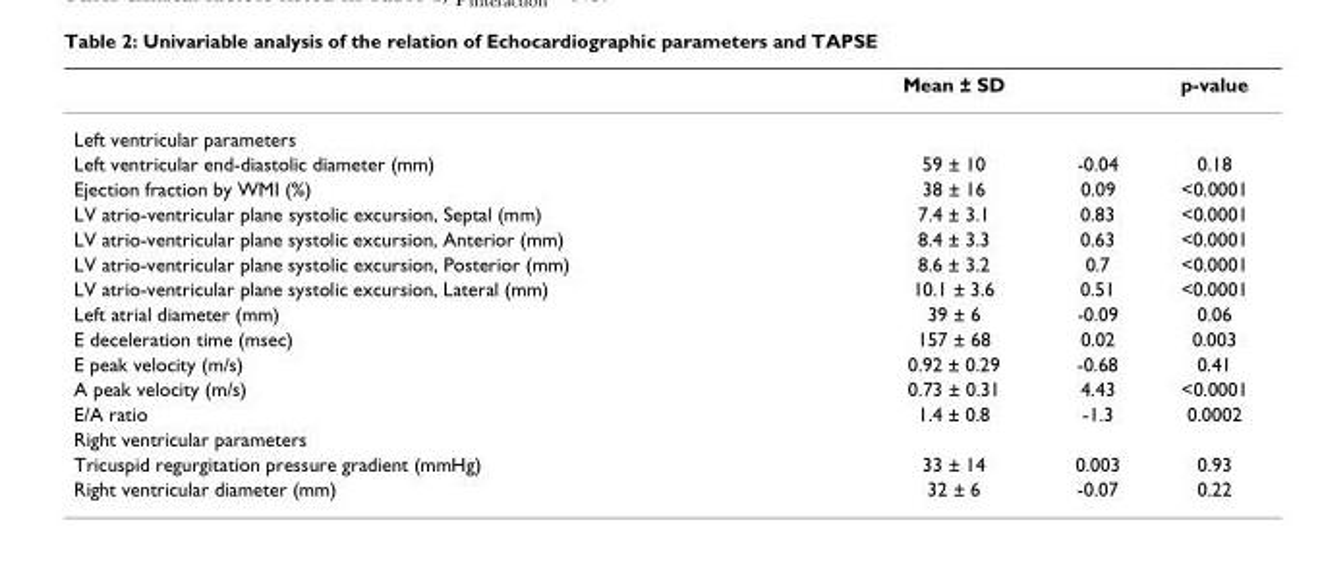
<table><thead><tr><td></td><td>Mean ± SD</td><td></td><td>p-value</td></tr></thead><tbody><tr><td colspan="4">Left ventricular parameters</td></tr><tr><td>Left ventricular end-diastolic diameter (mm)</td><td>59 ± 10</td><td>-0.04</td><td>0.18</td></tr><tr><td>Ejection fraction by WMI (%)</td><td>38 ± 16</td><td>0.09</td><td>&lt;0.0001</td></tr><tr><td>LV atrio-ventricular plane systolic excursion, Septal (mm)</td><td>7.4 ± 3.1</td><td>0.83</td><td>&lt;0.0001</td></tr><tr><td>LV atrio-ventricular plane systolic excursion, Anterior (mm)</td><td>8.4 ± 3.3</td><td>0.63</td><td>&lt;0.0001</td></tr><tr><td>LV atrio-ventricular plane systolic excursion, Posterior (mm)</td><td>8.6 ± 3.2</td><td>0.7</td><td>&lt;0.0001</td></tr><tr><td>LV atrio-ventricular plane systolic excursion, Lateral (mm)</td><td>10.1 ± 3.6</td><td>0.51</td><td>&lt;0.0001</td></tr><tr><td>Left atrial diameter (mm)</td><td>39 ± 6</td><td>-0.09</td><td>0.06</td></tr><tr><td>E deceleration time (msec)</td><td>157 ± 68</td><td>0.02</td><td>0.003</td></tr><tr><td>E peak velocity (m/s)</td><td>0.92 ± 0.29</td><td>-0.68</td><td>0.41</td></tr><tr><td>A peak velocity (m/s)</td><td>0.73 ± 0.31</td><td>4.43</td><td>&lt;0.0001</td></tr><tr><td>E/A ratio</td><td>1.4 ± 0.8</td><td>-1.3</td><td>0.0002</td></tr><tr><td colspan="4">Right ventricular parameters</td></tr><tr><td>Tricuspid regurgitation pressure gradient (mmHg)</td><td>33 ± 14</td><td>0.003</td><td>0.93</td></tr><tr><td>Right ventricular diameter (mm)</td><td>32 ± 6</td><td>-0.07</td><td>0.22</td></tr></tbody></table>